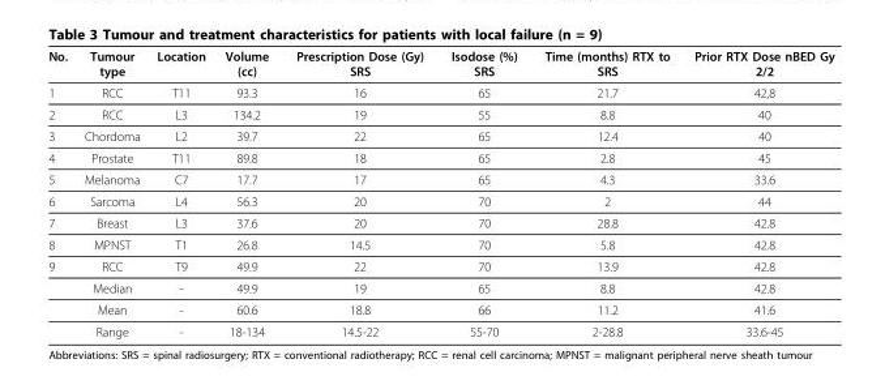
<table><thead><tr><td>No.</td><td>Tumour type</td><td>Location</td><td>Volume (cc)</td><td>Prescription Dose (Gy) SRS</td><td>Isodose (%) SRS</td><td>Time (months) RTX to SRS</td><td>Prior RTX Dose nBED Gy 2/2</td></tr></thead><tbody><tr><td>1</td><td>RCC</td><td>T11</td><td>93.3</td><td>16</td><td>65</td><td>21.7</td><td>42,8</td></tr><tr><td>2</td><td>RCC</td><td>L3</td><td>134.2</td><td>19</td><td>55</td><td>8.8</td><td>40</td></tr><tr><td>3</td><td>Chordoma</td><td>L2</td><td>39.7</td><td>22</td><td>65</td><td>12.4</td><td>40</td></tr><tr><td>4</td><td>Prostate</td><td>T11</td><td>89.8</td><td>18</td><td>65</td><td>2.8</td><td>45</td></tr><tr><td>5</td><td>Melanoma</td><td>C7</td><td>17.7</td><td>17</td><td>65</td><td>4.3</td><td>33.6</td></tr><tr><td>6</td><td>Sarcoma</td><td>L4</td><td>56.3</td><td>20</td><td>70</td><td>2</td><td>44</td></tr><tr><td>7</td><td>Breast</td><td>L3</td><td>37.6</td><td>20</td><td>70</td><td>28.8</td><td>42.8</td></tr><tr><td>8</td><td>MPNST</td><td>T1</td><td>26.8</td><td>14.5</td><td>70</td><td>5.8</td><td>42.8</td></tr><tr><td rowspan="4">9</td><td>RCC</td><td>T9</td><td>49.9</td><td>22</td><td>70</td><td>13.9</td><td>42.8</td></tr><tr><td>Median</td><td>-</td><td>49.9</td><td>19</td><td>65</td><td>8.8</td><td>42.8</td></tr><tr><td>Mean</td><td>-</td><td>60.6</td><td>18.8</td><td>66</td><td>11.2</td><td>41.6</td></tr><tr><td>Range</td><td>-</td><td>18-134</td><td>14.5-22</td><td>55-70</td><td>2-28.8</td><td>33.6-45</td></tr></tbody></table>